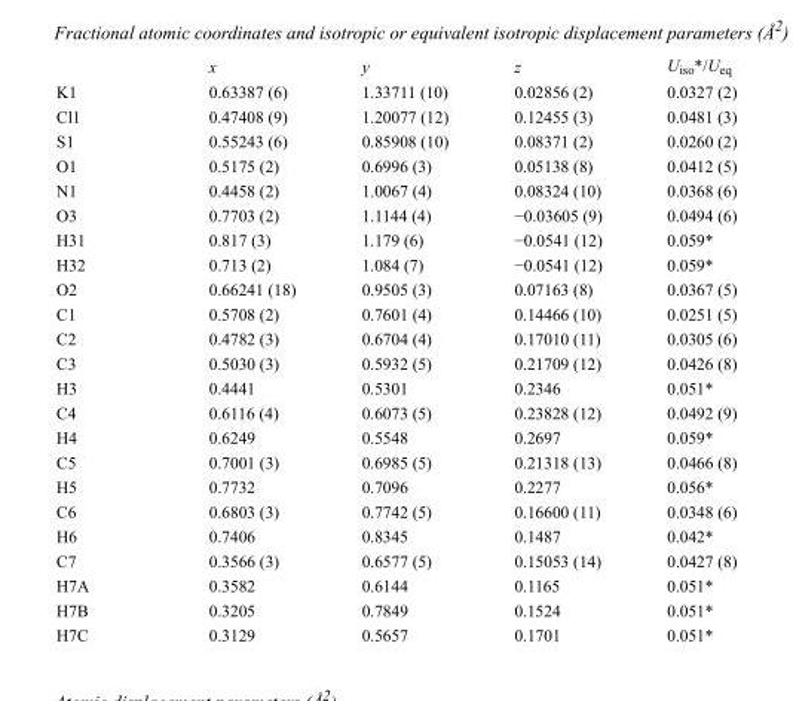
<table><thead><tr><td></td><td>x</td><td>y</td><td>z</td><td>U<sub>iso</sub>*/U<sub>eq</sub></td></tr></thead><tbody><tr><td>K1</td><td>0.63387 (6)</td><td>1.33711 (10)</td><td>0.02856 (2)</td><td>0.0327 (2)</td></tr><tr><td>Cl1</td><td>0.47408 (9)</td><td>1.20077 (12)</td><td>0.12455 (3)</td><td>0.0481 (3)</td></tr><tr><td>S1</td><td>0.55243 (6)</td><td>0.85908 (10)</td><td>0.08371 (2)</td><td>0.0260 (2)</td></tr><tr><td>O1</td><td>0.5175 (2)</td><td>0.6996 (3)</td><td>0.05138 (8)</td><td>0.0412 (5)</td></tr><tr><td>N1</td><td>0.4458 (2)</td><td>1.0067 (4)</td><td>0.08324 (10)</td><td>0.0368 (6)</td></tr><tr><td>O3</td><td>0.7703 (2)</td><td>1.1144 (4)</td><td>−0.03605 (9)</td><td>0.0494 (6)</td></tr><tr><td>H31</td><td>0.817 (3)</td><td>1.179 (6)</td><td>−0.0541 (12)</td><td>0.059*</td></tr><tr><td>H32</td><td>0.713 (2)</td><td>1.084 (7)</td><td>−0.0541 (12)</td><td>0.059*</td></tr><tr><td>O2</td><td>0.66241 (18)</td><td>0.9505 (3)</td><td>0.07163 (8)</td><td>0.0367 (5)</td></tr><tr><td>C1</td><td>0.5708 (2)</td><td>0.7601 (4)</td><td>0.14466 (10)</td><td>0.0251 (5)</td></tr><tr><td>C2</td><td>0.4782 (3)</td><td>0.6704 (4)</td><td>0.17010 (11)</td><td>0.0305 (6)</td></tr><tr><td>C3</td><td>0.5030 (3)</td><td>0.5932 (5)</td><td>0.21709 (12)</td><td>0.0426 (8)</td></tr><tr><td>H3</td><td>0.4441</td><td>0.5301</td><td>0.2346</td><td>0.051*</td></tr><tr><td>C4</td><td>0.6116 (4)</td><td>0.6073 (5)</td><td>0.23828 (12)</td><td>0.0492 (9)</td></tr><tr><td>H4</td><td>0.6249</td><td>0.5548</td><td>0.2697</td><td>0.059*</td></tr><tr><td>C5</td><td>0.7001 (3)</td><td>0.6985 (5)</td><td>0.21318 (13)</td><td>0.0466 (8)</td></tr><tr><td>H5</td><td>0.7732</td><td>0.7096</td><td>0.2277</td><td>0.056*</td></tr><tr><td>C6</td><td>0.6803 (3)</td><td>0.7742 (5)</td><td>0.16600 (11)</td><td>0.0348 (6)</td></tr><tr><td>H6</td><td>0.7406</td><td>0.8345</td><td>0.1487</td><td>0.042*</td></tr><tr><td>C7</td><td>0.3566 (3)</td><td>0.6577 (5)</td><td>0.15053 (14)</td><td>0.0427 (8)</td></tr><tr><td>H7A</td><td>0.3582</td><td>0.6144</td><td>0.1165</td><td>0.051*</td></tr><tr><td>H7B</td><td>0.3205</td><td>0.7849</td><td>0.1524</td><td>0.051*</td></tr><tr><td>H7C</td><td>0.3129</td><td>0.5657</td><td>0.1701</td><td>0.051*</td></tr></tbody></table>